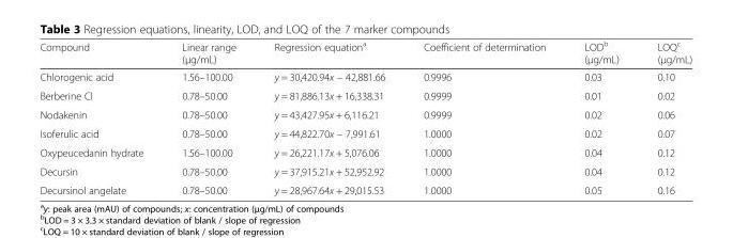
<table><thead><tr><td>Compound</td><td>Linear range (μg/mL)</td><td>Regression equation<sup>a</sup></td><td>Coefficient of determination</td><td>LOD<sup>b</sup> (μg/mL)</td><td>LOQ<sup>c</sup> (μg/mL)</td></tr></thead><tbody><tr><td>Chlorogenic acid</td><td>1.56–100.00</td><td>y = 30,420.94x – 42,881.66</td><td>0.9996</td><td>0.03</td><td>0.10</td></tr><tr><td>Berberine Cl</td><td>0.78–50.00</td><td>y = 81,886.13x + 16,338.31</td><td>0.9999</td><td>0.01</td><td>0.02</td></tr><tr><td>Nodakenin</td><td>0.78–50.00</td><td>y = 43,427.95x + 6,116.21</td><td>0.9999</td><td>0.02</td><td>0.06</td></tr><tr><td>Isoferulic acid</td><td>0.78–50.00</td><td>y = 44,822.70x – 7,991.61</td><td>1.0000</td><td>0.02</td><td>0.07</td></tr><tr><td>Oxypeucedanin hydrate</td><td>1.56–100.00</td><td>y = 26,221.17x + 5,076.06</td><td>1.0000</td><td>0.04</td><td>0.12</td></tr><tr><td>Decursin</td><td>0.78–50.00</td><td>y = 37,915.21x + 52,952.92</td><td>1.0000</td><td>0.04</td><td>0.12</td></tr><tr><td>Decursinol angelate</td><td>0.78–50.00</td><td>y = 28,967.64x + 29,015.53</td><td>1.0000</td><td>0.05</td><td>0.16</td></tr></tbody></table>